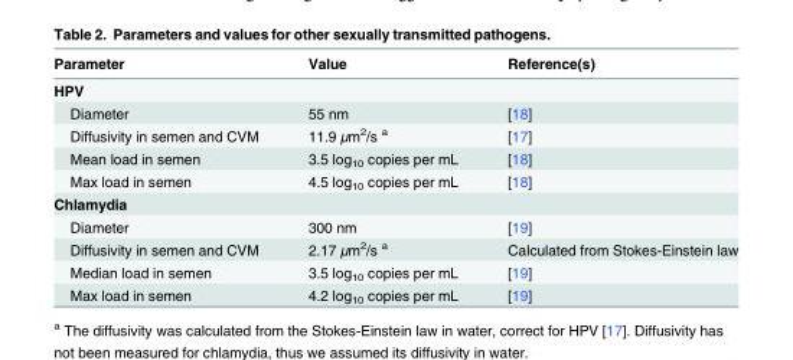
<table><thead><tr><td>Parameter</td><td>Value</td><td>Reference(s)</td></tr></thead><tbody><tr><td colspan="3">HPV</td></tr><tr><td>Diameter</td><td>55 nm</td><td>[18]</td></tr><tr><td>Diffusivity in semen and CVM</td><td>11.9 μm<sup>2</sup>/s <sup>a</sup></td><td>[17]</td></tr><tr><td>Mean load in semen</td><td>3.5 log<sub>10</sub> copies per mL</td><td>[18]</td></tr><tr><td>Max load in semen</td><td>4.5 log<sub>10</sub> copies per mL</td><td>[18]</td></tr><tr><td colspan="3">Chlamydia</td></tr><tr><td>Diameter</td><td>300 nm</td><td>[19]</td></tr><tr><td>Diffusivity in semen and CVM</td><td>2.17 μm<sup>2</sup>/s <sup>a</sup></td><td>Calculated from Stokes-Einstein law</td></tr><tr><td>Median load in semen</td><td>3.5 log<sub>10</sub> copies per mL</td><td>[19]</td></tr><tr><td>Max load in semen</td><td>4.2 log<sub>10</sub> copies per mL</td><td>[19]</td></tr></tbody></table>